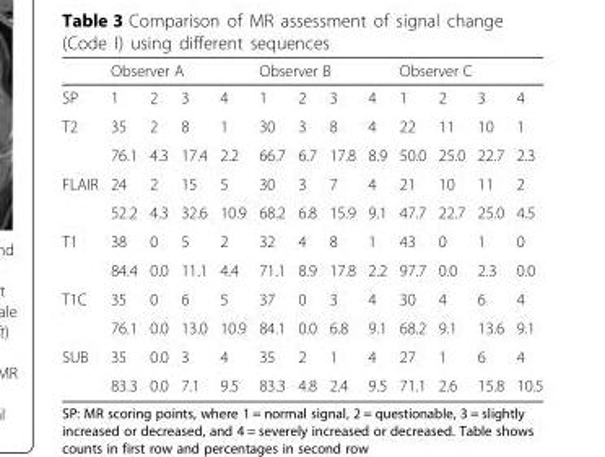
<table><thead><tr><td rowspan="2">SP</td><td colspan="4">Observer A</td><td colspan="4">Observer B</td><td colspan="4">Observer C</td></tr><tr><td>1</td><td>2</td><td>3</td><td>4</td><td>1</td><td>2</td><td>3</td><td>4</td><td>1</td><td>2</td><td>3</td><td>4</td></tr></thead><tbody><tr><td rowspan="2">T2</td><td>35</td><td>2</td><td>8</td><td>1</td><td>30</td><td>3</td><td>8</td><td>4</td><td>22</td><td>11</td><td>10</td><td>1</td></tr><tr><td>76.1</td><td>4.3</td><td>17.4</td><td>2.2</td><td>66.7</td><td>6.7</td><td>17.8</td><td>8.9</td><td>50.0</td><td>25.0</td><td>22.7</td><td>2.3</td></tr><tr><td rowspan="2">FLAIR</td><td>24</td><td>2</td><td>15</td><td>5</td><td>30</td><td>3</td><td>7</td><td>4</td><td>21</td><td>10</td><td>11</td><td>2</td></tr><tr><td>52.2</td><td>4.3</td><td>32.6</td><td>10.9</td><td>68.2</td><td>6.8</td><td>15.9</td><td>9.1</td><td>47.7</td><td>22.7</td><td>25.0</td><td>4.5</td></tr><tr><td rowspan="2">T1</td><td>38</td><td>0</td><td>5</td><td>2</td><td>32</td><td>4</td><td>8</td><td>1</td><td>43</td><td>0</td><td>1</td><td>0</td></tr><tr><td>84.4</td><td>0.0</td><td>11.1</td><td>4.4</td><td>71.1</td><td>8.9</td><td>17.8</td><td>2.2</td><td>97.7</td><td>0.0</td><td>2.3</td><td>0.0</td></tr><tr><td rowspan="2">T1C</td><td>35</td><td>0</td><td>6</td><td>5</td><td>37</td><td>0</td><td>3</td><td>4</td><td>30</td><td>4</td><td>6</td><td>4</td></tr><tr><td>76.1</td><td>0.0</td><td>13.0</td><td>10.9</td><td>84.1</td><td>0.0</td><td>6.8</td><td>9.1</td><td>68.2</td><td>9.1</td><td>13.6</td><td>9.1</td></tr><tr><td rowspan="2">SUB</td><td>35</td><td>0.0</td><td>3</td><td>4</td><td>35</td><td>2</td><td>1</td><td>4</td><td>27</td><td>1</td><td>6</td><td>4</td></tr><tr><td>83.3</td><td>0.0</td><td>7.1</td><td>9.5</td><td>83.3</td><td>4.8</td><td>2.4</td><td>9.5</td><td>71.1</td><td>2.6</td><td>15.8</td><td>10.5</td></tr></tbody></table>